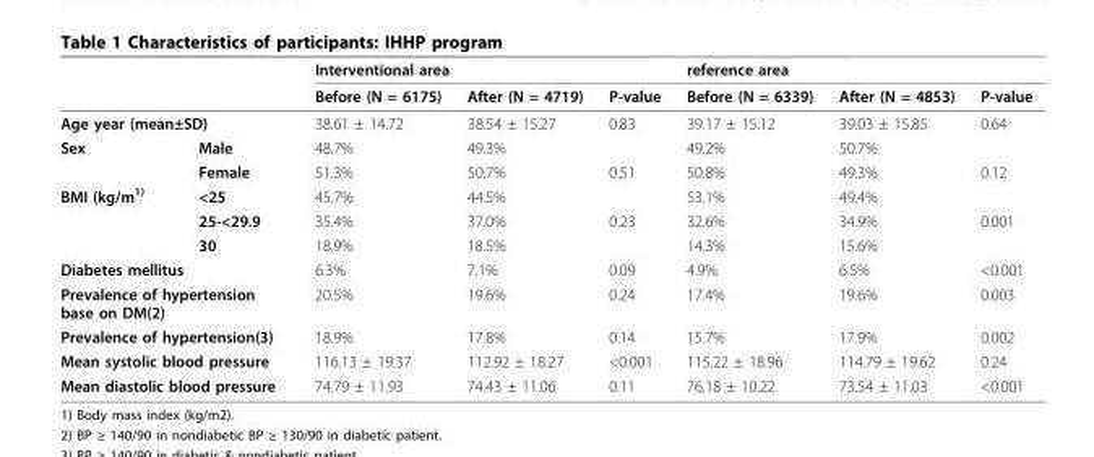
<table><thead><tr><td rowspan="2"></td><td rowspan="2"></td><td colspan="3">Interventional area</td><td colspan="3">reference area</td></tr><tr><td>Before (N = 6175)</td><td>After (N = 4719)</td><td>P-value</td><td>Before (N = 6339)</td><td>After (N = 4853)</td><td>P-value</td></tr></thead><tbody><tr><td colspan="2">Age year (mean±SD)</td><td>38.61 ± 14.72</td><td>38.54 ± 15.27</td><td>0.83</td><td>39.17 ± 15.12</td><td>39.03 ± 15.85</td><td>0.64</td></tr><tr><td rowspan="2">Sex</td><td>Male</td><td>48.7%</td><td>49.3%</td><td></td><td>49.2%</td><td>50.7%</td><td></td></tr><tr><td>Female</td><td>51.3%</td><td>50.7%</td><td>0.51</td><td>50.8%</td><td>49.3%</td><td>0.12</td></tr><tr><td rowspan="3">BMI (kg/m<sup>1)</sup></td><td>&lt;25</td><td>45.7%</td><td>44.5%</td><td></td><td>53.1%</td><td>49.4%</td><td></td></tr><tr><td>25-&lt;29.9</td><td>35.4%</td><td>37.0%</td><td>0.23</td><td>32.6%</td><td>34.9%</td><td>0.001</td></tr><tr><td>30</td><td>18.9%</td><td>18.5%</td><td></td><td>14.3%</td><td>15.6%</td><td></td></tr><tr><td colspan="2">Diabetes mellitus</td><td>6.3%</td><td>7.1%</td><td>0.09</td><td>4.9%</td><td>6.5%</td><td>&lt;0.001</td></tr><tr><td colspan="2">Prevalence of hypertension base on DM(2)</td><td>20.5%</td><td>19.6%</td><td>0.24</td><td>17.4%</td><td>19.6%</td><td>0.003</td></tr><tr><td colspan="2">Prevalence of hypertension(3)</td><td>18.9%</td><td>17.8%</td><td>0.14</td><td>15.7%</td><td>17.9%</td><td>0.002</td></tr><tr><td colspan="2">Mean systolic blood pressure</td><td>116.13 ± 19.37</td><td>112.92 ± 18.27</td><td>&lt;0.001</td><td>115.22 ± 18.96</td><td>114.79 ± 19.62</td><td>0.24</td></tr><tr><td colspan="2">Mean diastolic blood pressure</td><td>74.79 ± 11.93</td><td>74.43 ± 11.06</td><td>0.11</td><td>76.18 ± 10.22</td><td>73.54 ± 11.03</td><td>&lt;0.001</td></tr></tbody></table>